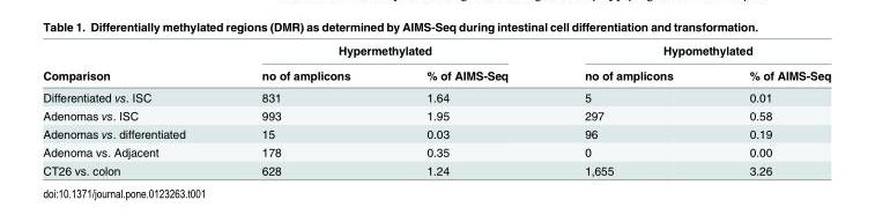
<table><thead><tr><td rowspan="2">Comparison</td><td colspan="2">Hypermethylated</td><td colspan="2">Hypomethylated</td></tr><tr><td>no of amplicons</td><td>% of AIMS-Seq</td><td>no of amplicons</td><td>% of AIMS-Seq</td></tr></thead><tbody><tr><td>Differentiated vs. ISC</td><td>831</td><td>1.64</td><td>5</td><td>0.01</td></tr><tr><td>Adenomas vs. ISC</td><td>993</td><td>1.95</td><td>297</td><td>0.58</td></tr><tr><td>Adenomas vs. differentiated</td><td>15</td><td>0.03</td><td>96</td><td>0.19</td></tr><tr><td>Adenoma vs. Adjacent</td><td>178</td><td>0.35</td><td>0</td><td>0.00</td></tr><tr><td>CT26 vs. colon</td><td>628</td><td>1.24</td><td>1,655</td><td>3.26</td></tr></tbody></table>